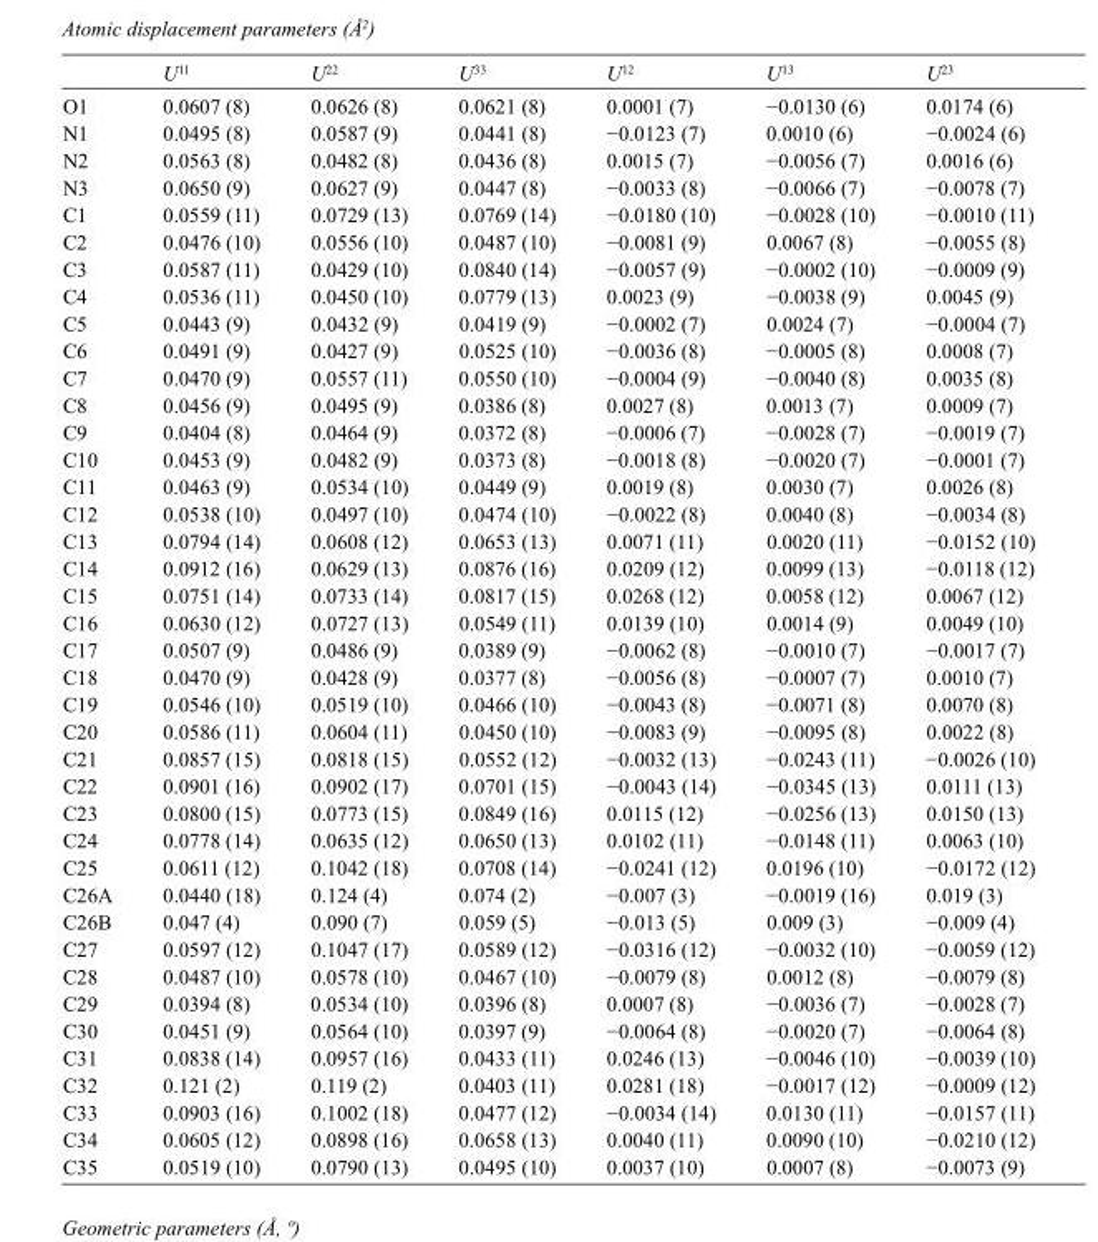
<table><thead><tr><td></td><td>U<sup>11</sup></td><td>U<sup>22</sup></td><td>U<sup>33</sup></td><td>U<sup>12</sup></td><td>U<sup>13</sup></td><td>U<sup>23</sup></td></tr></thead><tbody><tr><td>O1</td><td>0.0607 (8)</td><td>0.0626 (8)</td><td>0.0621 (8)</td><td>0.0001 (7)</td><td>−0.0130 (6)</td><td>0.0174 (6)</td></tr><tr><td>N1</td><td>0.0495 (8)</td><td>0.0587 (9)</td><td>0.0441 (8)</td><td>−0.0123 (7)</td><td>0.0010 (6)</td><td>−0.0024 (6)</td></tr><tr><td>N2</td><td>0.0563 (8)</td><td>0.0482 (8)</td><td>0.0436 (8)</td><td>0.0015 (7)</td><td>−0.0056 (7)</td><td>0.0016 (6)</td></tr><tr><td>N3</td><td>0.0650 (9)</td><td>0.0627 (9)</td><td>0.0447 (8)</td><td>−0.0033 (8)</td><td>−0.0066 (7)</td><td>−0.0078 (7)</td></tr><tr><td>C1</td><td>0.0559 (11)</td><td>0.0729 (13)</td><td>0.0769 (14)</td><td>−0.0180 (10)</td><td>−0.0028 (10)</td><td>−0.0010 (11)</td></tr><tr><td>C2</td><td>0.0476 (10)</td><td>0.0556 (10)</td><td>0.0487 (10)</td><td>−0.0081 (9)</td><td>0.0067 (8)</td><td>−0.0055 (8)</td></tr><tr><td>C3</td><td>0.0587 (11)</td><td>0.0429 (10)</td><td>0.0840 (14)</td><td>−0.0057 (9)</td><td>−0.0002 (10)</td><td>−0.0009 (9)</td></tr><tr><td>C4</td><td>0.0536 (11)</td><td>0.0450 (10)</td><td>0.0779 (13)</td><td>0.0023 (9)</td><td>−0.0038 (9)</td><td>0.0045 (9)</td></tr><tr><td>C5</td><td>0.0443 (9)</td><td>0.0432 (9)</td><td>0.0419 (9)</td><td>−0.0002 (7)</td><td>0.0024 (7)</td><td>−0.0004 (7)</td></tr><tr><td>C6</td><td>0.0491 (9)</td><td>0.0427 (9)</td><td>0.0525 (10)</td><td>−0.0036 (8)</td><td>−0.0005 (8)</td><td>0.0008 (7)</td></tr><tr><td>C7</td><td>0.0470 (9)</td><td>0.0557 (11)</td><td>0.0550 (10)</td><td>−0.0004 (9)</td><td>−0.0040 (8)</td><td>0.0035 (8)</td></tr><tr><td>C8</td><td>0.0456 (9)</td><td>0.0495 (9)</td><td>0.0386 (8)</td><td>0.0027 (8)</td><td>0.0013 (7)</td><td>0.0009 (7)</td></tr><tr><td>C9</td><td>0.0404 (8)</td><td>0.0464 (9)</td><td>0.0372 (8)</td><td>−0.0006 (7)</td><td>−0.0028 (7)</td><td>−0.0019 (7)</td></tr><tr><td>C10</td><td>0.0453 (9)</td><td>0.0482 (9)</td><td>0.0373 (8)</td><td>−0.0018 (8)</td><td>−0.0020 (7)</td><td>−0.0001 (7)</td></tr><tr><td>C11</td><td>0.0463 (9)</td><td>0.0534 (10)</td><td>0.0449 (9)</td><td>0.0019 (8)</td><td>0.0030 (7)</td><td>0.0026 (8)</td></tr><tr><td>C12</td><td>0.0538 (10)</td><td>0.0497 (10)</td><td>0.0474 (10)</td><td>−0.0022 (8)</td><td>0.0040 (8)</td><td>−0.0034 (8)</td></tr><tr><td>C13</td><td>0.0794 (14)</td><td>0.0608 (12)</td><td>0.0653 (13)</td><td>0.0071 (11)</td><td>0.0020 (11)</td><td>−0.0152 (10)</td></tr><tr><td>C14</td><td>0.0912 (16)</td><td>0.0629 (13)</td><td>0.0876 (16)</td><td>0.0209 (12)</td><td>0.0099 (13)</td><td>−0.0118 (12)</td></tr><tr><td>C15</td><td>0.0751 (14)</td><td>0.0733 (14)</td><td>0.0817 (15)</td><td>0.0268 (12)</td><td>0.0058 (12)</td><td>0.0067 (12)</td></tr><tr><td>C16</td><td>0.0630 (12)</td><td>0.0727 (13)</td><td>0.0549 (11)</td><td>0.0139 (10)</td><td>0.0014 (9)</td><td>0.0049 (10)</td></tr><tr><td>C17</td><td>0.0507 (9)</td><td>0.0486 (9)</td><td>0.0389 (9)</td><td>−0.0062 (8)</td><td>−0.0010 (7)</td><td>−0.0017 (7)</td></tr><tr><td>C18</td><td>0.0470 (9)</td><td>0.0428 (9)</td><td>0.0377 (8)</td><td>−0.0056 (8)</td><td>−0.0007 (7)</td><td>0.0010 (7)</td></tr><tr><td>C19</td><td>0.0546 (10)</td><td>0.0519 (10)</td><td>0.0466 (10)</td><td>−0.0043 (8)</td><td>−0.0071 (8)</td><td>0.0070 (8)</td></tr><tr><td>C20</td><td>0.0586 (11)</td><td>0.0604 (11)</td><td>0.0450 (10)</td><td>−0.0083 (9)</td><td>−0.0095 (8)</td><td>0.0022 (8)</td></tr><tr><td>C21</td><td>0.0857 (15)</td><td>0.0818 (15)</td><td>0.0552 (12)</td><td>−0.0032 (13)</td><td>−0.0243 (11)</td><td>−0.0026 (10)</td></tr><tr><td>C22</td><td>0.0901 (16)</td><td>0.0902 (17)</td><td>0.0701 (15)</td><td>−0.0043 (14)</td><td>−0.0345 (13)</td><td>0.0111 (13)</td></tr><tr><td>C23</td><td>0.0800 (15)</td><td>0.0773 (15)</td><td>0.0849 (16)</td><td>0.0115 (12)</td><td>−0.0256 (13)</td><td>0.0150 (13)</td></tr><tr><td>C24</td><td>0.0778 (14)</td><td>0.0635 (12)</td><td>0.0650 (13)</td><td>0.0102 (11)</td><td>−0.0148 (11)</td><td>0.0063 (10)</td></tr><tr><td>C25</td><td>0.0611 (12)</td><td>0.1042 (18)</td><td>0.0708 (14)</td><td>−0.0241 (12)</td><td>0.0196 (10)</td><td>−0.0172 (12)</td></tr><tr><td>C26A</td><td>0.0440 (18)</td><td>0.124 (4)</td><td>0.074 (2)</td><td>−0.007 (3)</td><td>−0.0019 (16)</td><td>0.019 (3)</td></tr><tr><td>C26B</td><td>0.047 (4)</td><td>0.090 (7)</td><td>0.059 (5)</td><td>−0.013 (5)</td><td>0.009 (3)</td><td>−0.009 (4)</td></tr><tr><td>C27</td><td>0.0597 (12)</td><td>0.1047 (17)</td><td>0.0589 (12)</td><td>−0.0316 (12)</td><td>−0.0032 (10)</td><td>−0.0059 (12)</td></tr><tr><td>C28</td><td>0.0487 (10)</td><td>0.0578 (10)</td><td>0.0467 (10)</td><td>−0.0079 (8)</td><td>0.0012 (8)</td><td>−0.0079 (8)</td></tr><tr><td>C29</td><td>0.0394 (8)</td><td>0.0534 (10)</td><td>0.0396 (8)</td><td>0.0007 (8)</td><td>−0.0036 (7)</td><td>−0.0028 (7)</td></tr><tr><td>C30</td><td>0.0451 (9)</td><td>0.0564 (10)</td><td>0.0397 (9)</td><td>−0.0064 (8)</td><td>−0.0020 (7)</td><td>−0.0064 (8)</td></tr><tr><td>C31</td><td>0.0838 (14)</td><td>0.0957 (16)</td><td>0.0433 (11)</td><td>0.0246 (13)</td><td>−0.0046 (10)</td><td>−0.0039 (10)</td></tr><tr><td>C32</td><td>0.121 (2)</td><td>0.119 (2)</td><td>0.0403 (11)</td><td>0.0281 (18)</td><td>−0.0017 (12)</td><td>−0.0009 (12)</td></tr><tr><td>C33</td><td>0.0903 (16)</td><td>0.1002 (18)</td><td>0.0477 (12)</td><td>−0.0034 (14)</td><td>0.0130 (11)</td><td>−0.0157 (11)</td></tr><tr><td>C34</td><td>0.0605 (12)</td><td>0.0898 (16)</td><td>0.0658 (13)</td><td>0.0040 (11)</td><td>0.0090 (10)</td><td>−0.0210 (12)</td></tr><tr><td>C35</td><td>0.0519 (10)</td><td>0.0790 (13)</td><td>0.0495 (10)</td><td>0.0037 (10)</td><td>0.0007 (8)</td><td>−0.0073 (9)</td></tr></tbody></table>